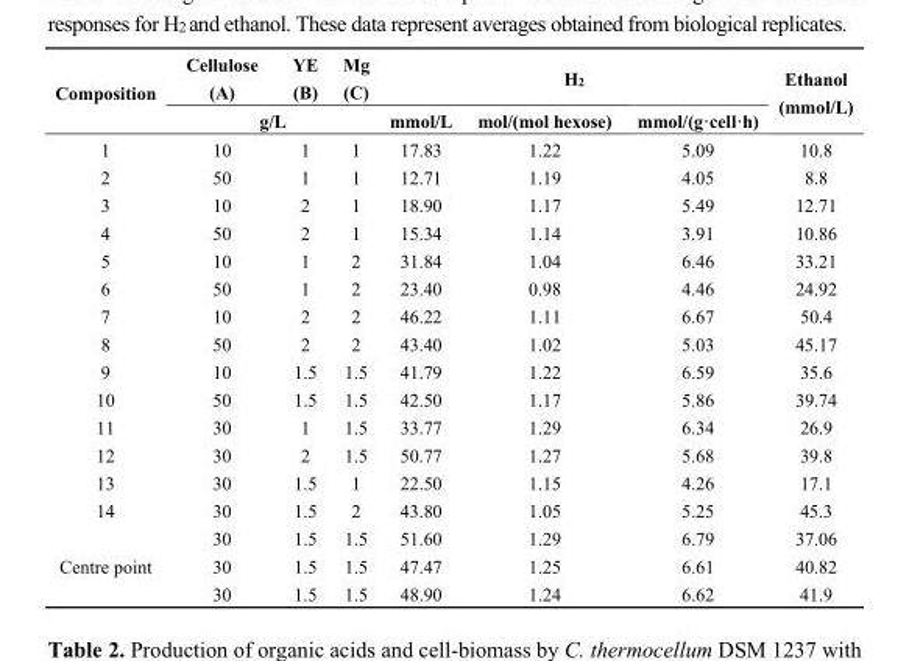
<table><thead><tr><td rowspan="2">Composition</td><td>Cellulose (A)</td><td>YE (B)</td><td>Mg (C)</td><td colspan="3">H<sub>2</sub></td><td rowspan="2">Ethanol (mmol/L)</td></tr><tr><td colspan="3">g/L</td><td>mmol/L</td><td>mol/(mol hexose)</td><td>mmol/(g·cell·h)</td></tr></thead><tbody><tr><td>1</td><td>10</td><td>1</td><td>1</td><td>17.83</td><td>1.22</td><td>5.09</td><td>10.8</td></tr><tr><td>2</td><td>50</td><td>1</td><td>1</td><td>12.71</td><td>1.19</td><td>4.05</td><td>8.8</td></tr><tr><td>3</td><td>10</td><td>2</td><td>1</td><td>18.90</td><td>1.17</td><td>5.49</td><td>12.71</td></tr><tr><td>4</td><td>50</td><td>2</td><td>1</td><td>15.34</td><td>1.14</td><td>3.91</td><td>10.86</td></tr><tr><td>5</td><td>10</td><td>1</td><td>2</td><td>31.84</td><td>1.04</td><td>6.46</td><td>33.21</td></tr><tr><td>6</td><td>50</td><td>1</td><td>2</td><td>23.40</td><td>0.98</td><td>4.46</td><td>24.92</td></tr><tr><td>7</td><td>10</td><td>2</td><td>2</td><td>46.22</td><td>1.11</td><td>6.67</td><td>50.4</td></tr><tr><td>8</td><td>50</td><td>2</td><td>2</td><td>43.40</td><td>1.02</td><td>5.03</td><td>45.17</td></tr><tr><td>9</td><td>10</td><td>1.5</td><td>1.5</td><td>41.79</td><td>1.22</td><td>6.59</td><td>35.6</td></tr><tr><td>10</td><td>50</td><td>1.5</td><td>1.5</td><td>42.50</td><td>1.17</td><td>5.86</td><td>39.74</td></tr><tr><td>11</td><td>30</td><td>1</td><td>1.5</td><td>33.77</td><td>1.29</td><td>6.34</td><td>26.9</td></tr><tr><td>12</td><td>30</td><td>2</td><td>1.5</td><td>50.77</td><td>1.27</td><td>5.68</td><td>39.8</td></tr><tr><td>13</td><td>30</td><td>1.5</td><td>1</td><td>22.50</td><td>1.15</td><td>4.26</td><td>17.1</td></tr><tr><td>14</td><td>30</td><td>1.5</td><td>2</td><td>43.80</td><td>1.05</td><td>5.25</td><td>45.3</td></tr><tr><td rowspan="3">Centre point</td><td>30</td><td>1.5</td><td>1.5</td><td>51.60</td><td>1.29</td><td>6.79</td><td>37.06</td></tr><tr><td>30</td><td>1.5</td><td>1.5</td><td>47.47</td><td>1.25</td><td>6.61</td><td>40.82</td></tr><tr><td>30</td><td>1.5</td><td>1.5</td><td>48.90</td><td>1.24</td><td>6.62</td><td>41.9</td></tr></tbody></table>